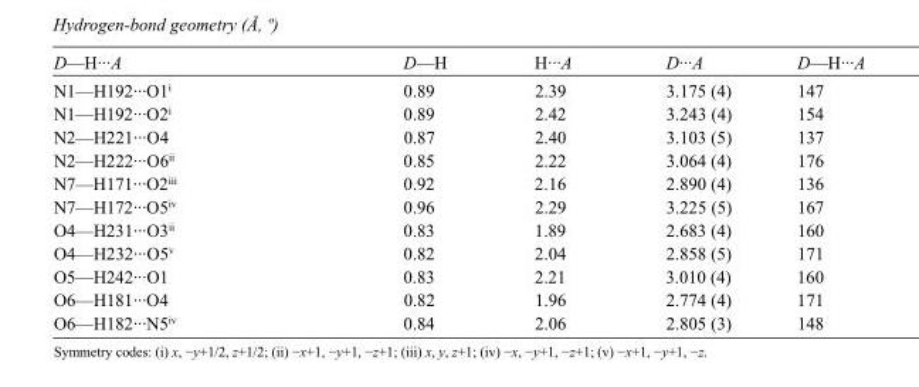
<table><tbody><tr><td>D—H···A</td><td>D—H</td><td>H···A</td><td>D···A</td><td>D—H···A</td></tr><tr><td>N1—H192···O1<sup>i</sup></td><td>0.89</td><td>2.39</td><td>3.175 (4)</td><td>147</td></tr><tr><td>N1—H192···O2<sup>i</sup></td><td>0.89</td><td>2.42</td><td>3.243 (4)</td><td>154</td></tr><tr><td>N2—H221···O4</td><td>0.87</td><td>2.40</td><td>3.103 (5)</td><td>137</td></tr><tr><td>N2—H222···O6<sup>ii</sup></td><td>0.85</td><td>2.22</td><td>3.064 (4)</td><td>176</td></tr><tr><td>N7—H171···O2<sup>iii</sup></td><td>0.92</td><td>2.16</td><td>2.890 (4)</td><td>136</td></tr><tr><td>N7—H172···O5<sup>iv</sup></td><td>0.96</td><td>2.29</td><td>3.225 (5)</td><td>167</td></tr><tr><td>O4—H231···O3<sup>ii</sup></td><td>0.83</td><td>1.89</td><td>2.683 (4)</td><td>160</td></tr><tr><td>O4—H232···O5<sup>v</sup></td><td>0.82</td><td>2.04</td><td>2.858 (5)</td><td>171</td></tr><tr><td>O5—H242···O1</td><td>0.83</td><td>2.21</td><td>3.010 (4)</td><td>160</td></tr><tr><td>O6—H181···O4</td><td>0.82</td><td>1.96</td><td>2.774 (4)</td><td>171</td></tr><tr><td>O6—H182···N5<sup>iv</sup></td><td>0.84</td><td>2.06</td><td>2.805 (3)</td><td>148</td></tr></tbody></table>